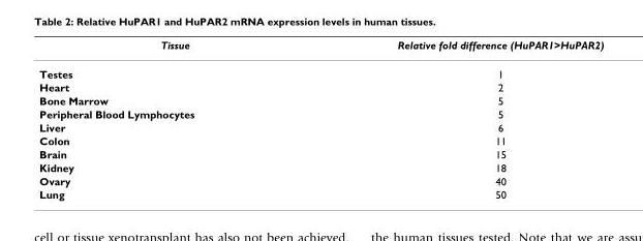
<table><thead><tr><td>Tissue</td><td>Relative fold difference (HuPAR1&gt;HuPAR2)</td></tr></thead><tbody><tr><td>Testes</td><td>1</td></tr><tr><td>Heart</td><td>2</td></tr><tr><td>Bone Marrow</td><td>5</td></tr><tr><td>Peripheral Blood Lymphocytes</td><td>5</td></tr><tr><td>Liver</td><td>6</td></tr><tr><td>Colon</td><td>11</td></tr><tr><td>Brain</td><td>15</td></tr><tr><td>Kidney</td><td>18</td></tr><tr><td>Ovary</td><td>40</td></tr><tr><td>Lung</td><td>50</td></tr></tbody></table>